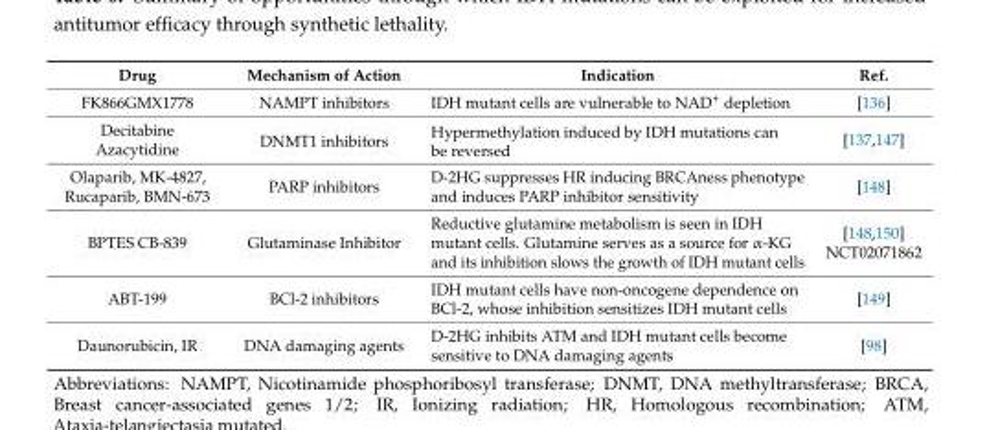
<table><thead><tr><td>Drug</td><td>Mechanism of Action</td><td>Indication</td><td>Ref.</td></tr></thead><tbody><tr><td>FK866GMX1778</td><td>NAMPT inhibitors</td><td>IDH mutant cells are vulnerable to NAD<sup>+</sup> depletion</td><td>[136]</td></tr><tr><td>Decitabine</td><td rowspan="2">DNMT1 inhibitors</td><td rowspan="2">Hypermethylation induced by IDH mutations can be reversed</td><td rowspan="2">[137,147]</td></tr><tr><td>Azacytidine</td></tr><tr><td>Olaparib, MK-4827, Rucaparib, BMN-673</td><td>PARP inhibitors</td><td>D-2HG suppresses HR inducing BRCAness phenotype and induces PARP inhibitor sensitivity</td><td>[148]</td></tr><tr><td>BPTES CB-839</td><td>Glutaminase Inhibitor</td><td>Reductive glutamine metabolism is seen in IDH mutant cells. Glutamine serves as a source for α-KG and its inhibition slows the growth of IDH mutant cells</td><td>[148,150] NCT02071862</td></tr><tr><td>ABT-199</td><td>BCl-2 inhibitors</td><td>IDH mutant cells have non-oncogene dependence on BCl-2, whose inhibition sensitizes IDH mutant cells</td><td>[149]</td></tr><tr><td>Daunorubicin, IR</td><td>DNA damaging agents</td><td>D-2HG inhibits ATM and IDH mutant cells become sensitive to DNA damaging agents</td><td>[98]</td></tr></tbody></table>